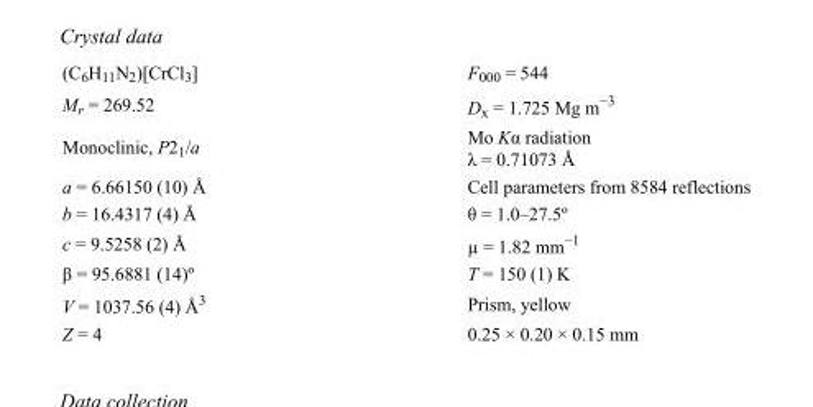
<table><tbody><tr><td>(C<sub>6</sub>H<sub>11</sub>N<sub>2</sub>)[CrCl<sub>3</sub>]</td><td>F000 = 544</td></tr><tr><td>M<sub>r</sub> = 269.52</td><td>D<sub>x</sub> = 1.725 Mg m<sup>−3</sup></td></tr><tr><td>Monoclinic, P2<sub>1</sub>/a</td><td>Mo Kα radiation λ = 0.71073 Å</td></tr><tr><td>a = 6.66150 (10) Å</td><td>Cell parameters from 8584 reflections</td></tr><tr><td>b = 16.4317 (4) Å</td><td>θ = 1.0–27.5º</td></tr><tr><td>c = 9.5258 (2) Å</td><td>µ = 1.82 mm<sup>−1</sup></td></tr><tr><td>β = 95.6881 (14)º</td><td>T = 150 (1) K</td></tr><tr><td>V = 1037.56 (4) Å<sup>3</sup></td><td>Prism, yellow</td></tr><tr><td>Z = 4</td><td>0.25 × 0.20 × 0.15 mm</td></tr></tbody></table>